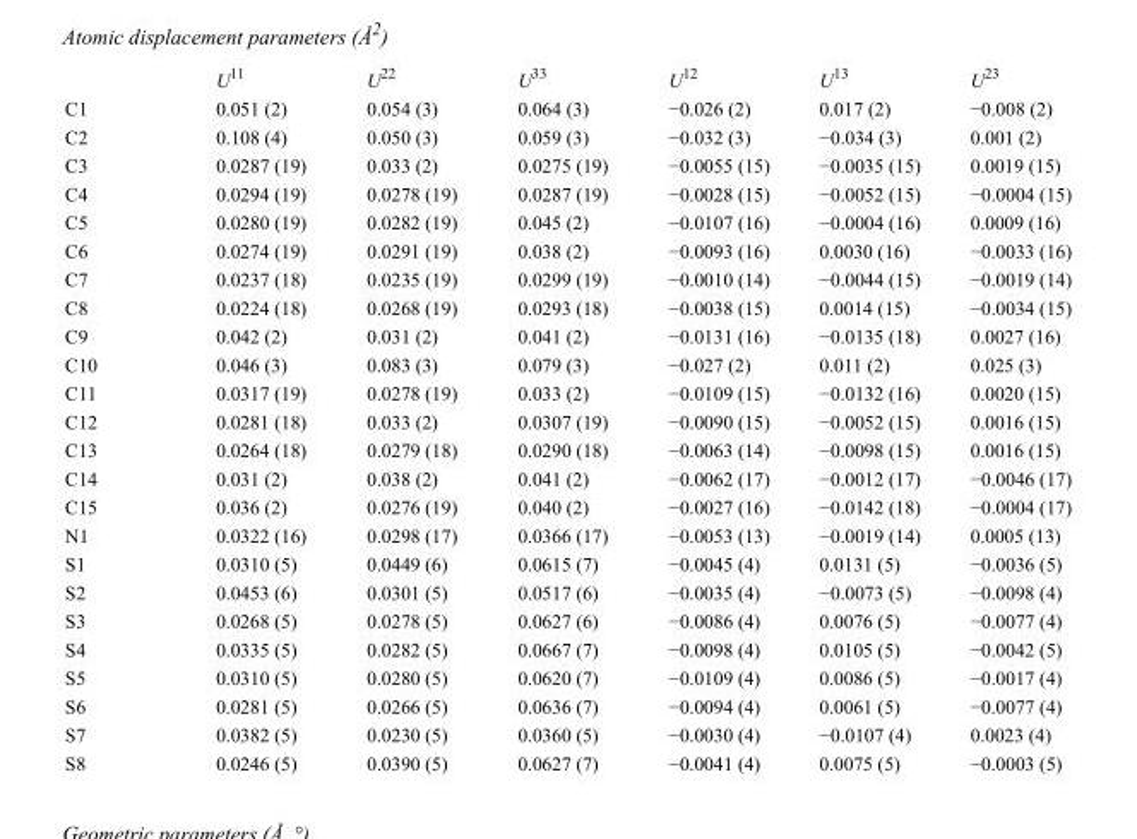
<table><thead><tr><td></td><td>U<sup>11</sup></td><td>U<sup>22</sup></td><td>U<sup>33</sup></td><td>U<sup>12</sup></td><td>U<sup>13</sup></td><td>U<sup>23</sup></td></tr></thead><tbody><tr><td>C1</td><td>0.051 (2)</td><td>0.054 (3)</td><td>0.064 (3)</td><td>−0.026 (2)</td><td>0.017 (2)</td><td>−0.008 (2)</td></tr><tr><td>C2</td><td>0.108 (4)</td><td>0.050 (3)</td><td>0.059 (3)</td><td>−0.032 (3)</td><td>−0.034 (3)</td><td>0.001 (2)</td></tr><tr><td>C3</td><td>0.0287 (19)</td><td>0.033 (2)</td><td>0.0275 (19)</td><td>−0.0055 (15)</td><td>−0.0035 (15)</td><td>0.0019 (15)</td></tr><tr><td>C4</td><td>0.0294 (19)</td><td>0.0278 (19)</td><td>0.0287 (19)</td><td>−0.0028 (15)</td><td>−0.0052 (15)</td><td>−0.0004 (15)</td></tr><tr><td>C5</td><td>0.0280 (19)</td><td>0.0282 (19)</td><td>0.045 (2)</td><td>−0.0107 (16)</td><td>−0.0004 (16)</td><td>0.0009 (16)</td></tr><tr><td>C6</td><td>0.0274 (19)</td><td>0.0291 (19)</td><td>0.038 (2)</td><td>−0.0093 (16)</td><td>0.0030 (16)</td><td>−0.0033 (16)</td></tr><tr><td>C7</td><td>0.0237 (18)</td><td>0.0235 (19)</td><td>0.0299 (19)</td><td>−0.0010 (14)</td><td>−0.0044 (15)</td><td>−0.0019 (14)</td></tr><tr><td>C8</td><td>0.0224 (18)</td><td>0.0268 (19)</td><td>0.0293 (18)</td><td>−0.0038 (15)</td><td>0.0014 (15)</td><td>−0.0034 (15)</td></tr><tr><td>C9</td><td>0.042 (2)</td><td>0.031 (2)</td><td>0.041 (2)</td><td>−0.0131 (16)</td><td>−0.0135 (18)</td><td>0.0027 (16)</td></tr><tr><td>C10</td><td>0.046 (3)</td><td>0.083 (3)</td><td>0.079 (3)</td><td>−0.027 (2)</td><td>0.011 (2)</td><td>0.025 (3)</td></tr><tr><td>C11</td><td>0.0317 (19)</td><td>0.0278 (19)</td><td>0.033 (2)</td><td>−0.0109 (15)</td><td>−0.0132 (16)</td><td>0.0020 (15)</td></tr><tr><td>C12</td><td>0.0281 (18)</td><td>0.033 (2)</td><td>0.0307 (19)</td><td>−0.0090 (15)</td><td>−0.0052 (15)</td><td>0.0016 (15)</td></tr><tr><td>C13</td><td>0.0264 (18)</td><td>0.0279 (18)</td><td>0.0290 (18)</td><td>−0.0063 (14)</td><td>−0.0098 (15)</td><td>0.0016 (15)</td></tr><tr><td>C14</td><td>0.031 (2)</td><td>0.038 (2)</td><td>0.041 (2)</td><td>−0.0062 (17)</td><td>−0.0012 (17)</td><td>−0.0046 (17)</td></tr><tr><td>C15</td><td>0.036 (2)</td><td>0.0276 (19)</td><td>0.040 (2)</td><td>−0.0027 (16)</td><td>−0.0142 (18)</td><td>−0.0004 (17)</td></tr><tr><td>N1</td><td>0.0322 (16)</td><td>0.0298 (17)</td><td>0.0366 (17)</td><td>−0.0053 (13)</td><td>−0.0019 (14)</td><td>0.0005 (13)</td></tr><tr><td>S1</td><td>0.0310 (5)</td><td>0.0449 (6)</td><td>0.0615 (7)</td><td>−0.0045 (4)</td><td>0.0131 (5)</td><td>−0.0036 (5)</td></tr><tr><td>S2</td><td>0.0453 (6)</td><td>0.0301 (5)</td><td>0.0517 (6)</td><td>−0.0035 (4)</td><td>−0.0073 (5)</td><td>−0.0098 (4)</td></tr><tr><td>S3</td><td>0.0268 (5)</td><td>0.0278 (5)</td><td>0.0627 (6)</td><td>−0.0086 (4)</td><td>0.0076 (5)</td><td>−0.0077 (4)</td></tr><tr><td>S4</td><td>0.0335 (5)</td><td>0.0282 (5)</td><td>0.0667 (7)</td><td>−0.0098 (4)</td><td>0.0105 (5)</td><td>−0.0042 (5)</td></tr><tr><td>S5</td><td>0.0310 (5)</td><td>0.0280 (5)</td><td>0.0620 (7)</td><td>−0.0109 (4)</td><td>0.0086 (5)</td><td>−0.0017 (4)</td></tr><tr><td>S6</td><td>0.0281 (5)</td><td>0.0266 (5)</td><td>0.0636 (7)</td><td>−0.0094 (4)</td><td>0.0061 (5)</td><td>−0.0077 (4)</td></tr><tr><td>S7</td><td>0.0382 (5)</td><td>0.0230 (5)</td><td>0.0360 (5)</td><td>−0.0030 (4)</td><td>−0.0107 (4)</td><td>0.0023 (4)</td></tr><tr><td>S8</td><td>0.0246 (5)</td><td>0.0390 (5)</td><td>0.0627 (7)</td><td>−0.0041 (4)</td><td>0.0075 (5)</td><td>−0.0003 (5)</td></tr></tbody></table>